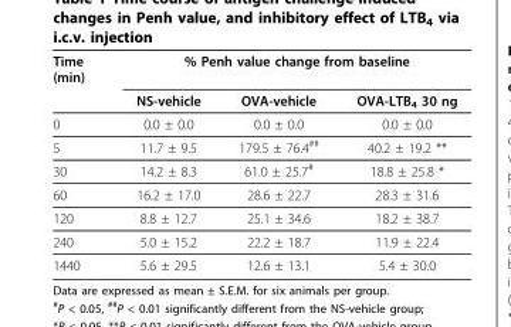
<table><thead><tr><td rowspan="2">Time (min)</td><td colspan="3">% Penh value change from baseline</td></tr><tr><td>NS-vehicle</td><td>OVA-vehicle</td><td>OVA-LTB<sub>4</sub> 30 ng</td></tr></thead><tbody><tr><td>0</td><td>0.0 ± 0.0</td><td>0.0 ± 0.0</td><td>0.0 ± 0.0</td></tr><tr><td>5</td><td>11.7 ± 9.5</td><td>179.5 ± 76.4<sup>##</sup></td><td>40.2 ± 19.2 **</td></tr><tr><td>30</td><td>14.2 ± 8.3</td><td>61.0 ± 25.7<sup>#</sup></td><td>18.8 ± 25.8 *</td></tr><tr><td>60</td><td>16.2 ± 17.0</td><td>28.6 ± 22.7</td><td>28.3 ± 31.6</td></tr><tr><td>120</td><td>8.8 ± 12.7</td><td>25.1 ± 34.6</td><td>18.2 ± 38.7</td></tr><tr><td>240</td><td>5.0 ± 15.2</td><td>22.2 ± 18.7</td><td>11.9 ± 22.4</td></tr><tr><td>1440</td><td>5.6 ± 29.5</td><td>12.6 ± 13.1</td><td>5.4 ± 30.0</td></tr></tbody></table>